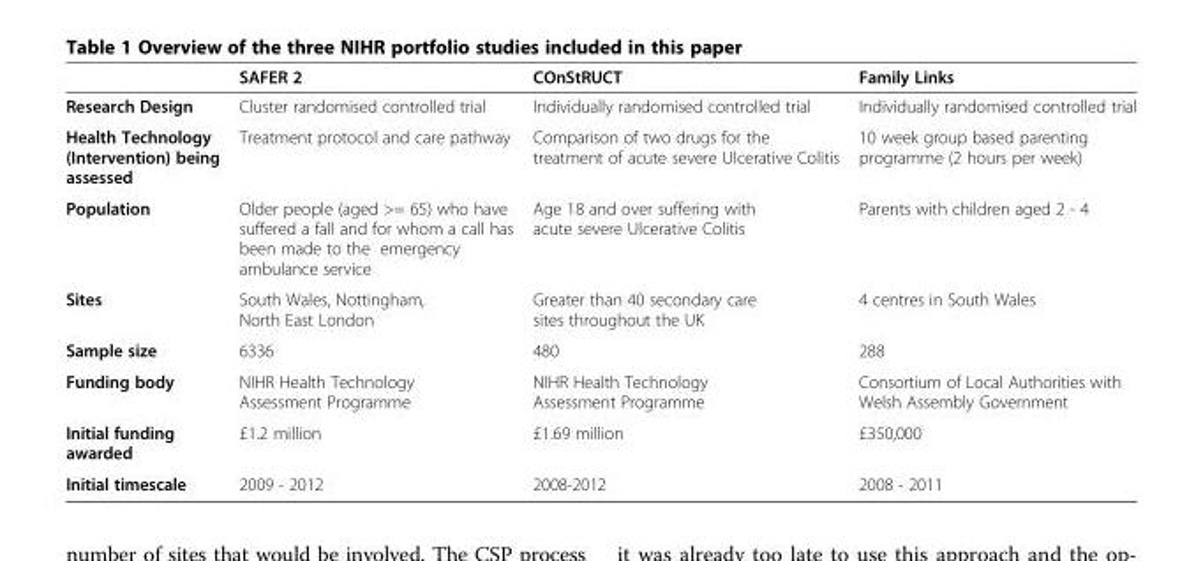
<table><thead><tr><td></td><td>SAFER 2</td><td>COnStRUCT</td><td>Family Links</td></tr></thead><tbody><tr><td>Research Design</td><td>Cluster randomised controlled trial</td><td>Individually randomised controlled trial</td><td>Individually randomised controlled trial</td></tr><tr><td>Health Technology (Intervention) being assessed</td><td>Treatment protocol and care pathway</td><td>Comparison of two drugs for the treatment of acute severe Ulcerative Colitis</td><td>10 week group based parenting programme (2 hours per week)</td></tr><tr><td>Population</td><td>Older people (aged &gt;= 65) who have suffered a fall and for whom a call has been made to the emergency ambulance service</td><td>Age 18 and over suffering with acute severe Ulcerative Colitis</td><td>Parents with children aged 2 - 4</td></tr><tr><td>Sites</td><td>South Wales, Nottingham, North East London</td><td>Greater than 40 secondary care sites throughout the UK</td><td>4 centres in South Wales</td></tr><tr><td>Sample size</td><td>6336</td><td>480</td><td>288</td></tr><tr><td>Funding body</td><td>NIHR Health Technology Assessment Programme</td><td>NIHR Health Technology Assessment Programme</td><td>Consortium of Local Authorities with Welsh Assembly Government</td></tr><tr><td>Initial funding awarded</td><td>£1.2 million</td><td>£1.69 million</td><td>£350,000</td></tr><tr><td>Initial timescale</td><td>2009 - 2012</td><td>2008-2012</td><td>2008 - 2011</td></tr></tbody></table>